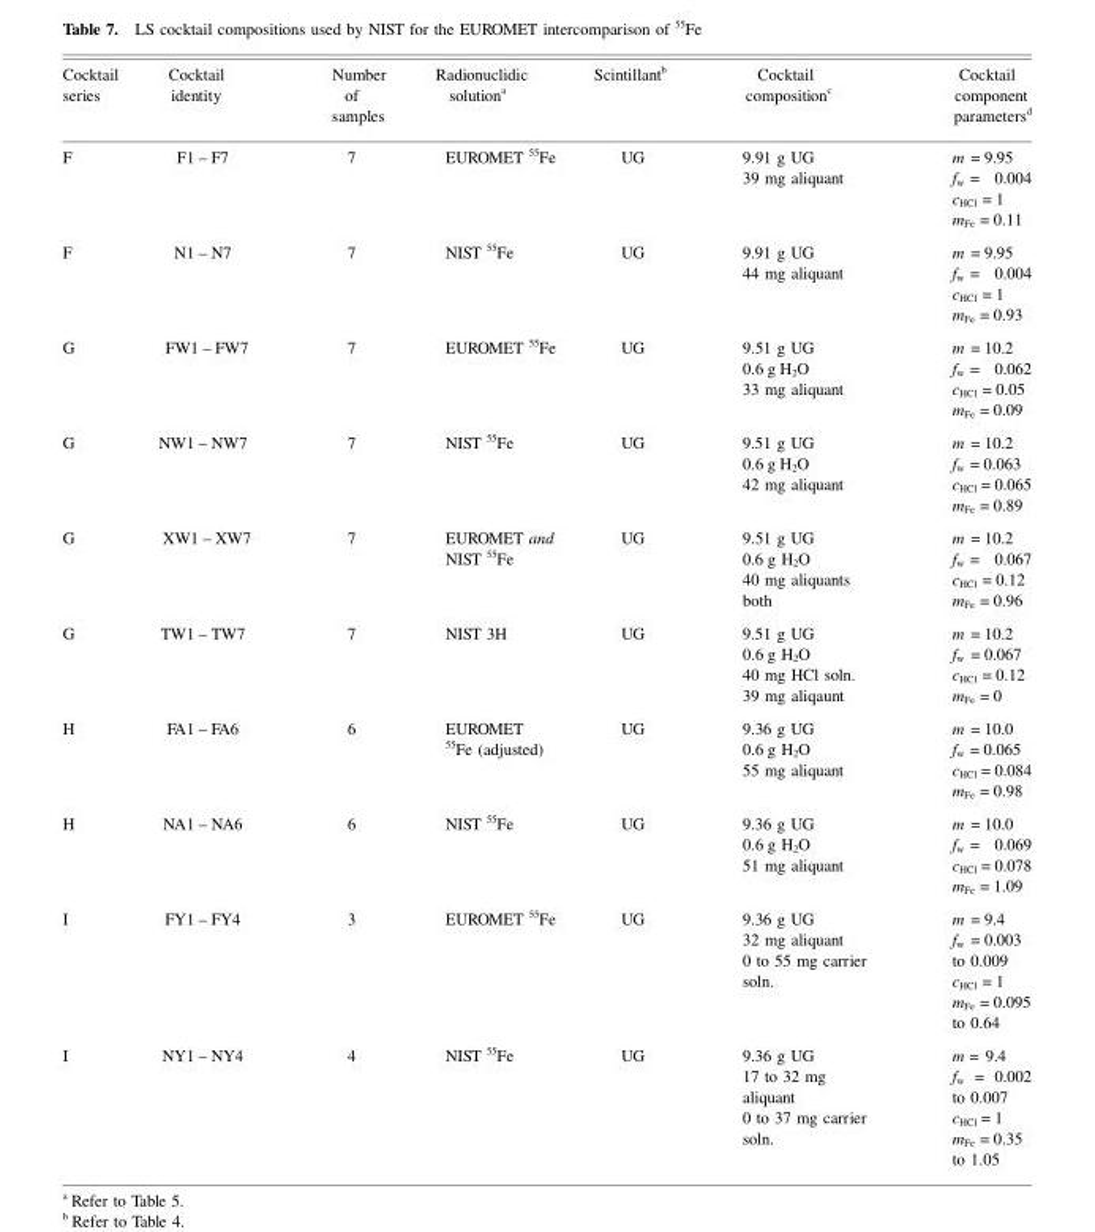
<table><thead><tr><td>Cocktail series</td><td>Cocktail identity</td><td>Number of samples</td><td>Radionuclidic solution<sup>a</sup></td><td>Scintillant<sup>b</sup></td><td>Cocktail composition<sup>c</sup></td><td>Cocktail component parameters<sup>d</sup></td></tr></thead><tbody><tr><td>F</td><td>F1 – F7</td><td>7</td><td>EUROMET <sup>55</sup>Fe</td><td>UG</td><td>9.91 g UG 39 mg aliquant</td><td>m = 9.95 f<sub>w</sub> = 0.004 c<sub>HCl</sub> = 1 m<sub>Fe</sub> = 0.11</td></tr><tr><td>F</td><td>N1 – N7</td><td>7</td><td>NIST <sup>55</sup>Fe</td><td>UG</td><td>9.91 g UG 44 mg aliquant</td><td>m = 9.95 f<sub>w</sub> = 0.004 c<sub>HCl</sub> = 1 m<sub>Fe</sub> = 0.93</td></tr><tr><td>G</td><td>FW1 – FW7</td><td>7</td><td>EUROMET <sup>55</sup>Fe</td><td>UG</td><td>9.51 g UG 0.6 g H<sub>2</sub>O 33 mg aliquant</td><td>m = 10.2 f<sub>w</sub> = 0.062 c<sub>HCl</sub> = 0.05 m<sub>Fe</sub> = 0.09</td></tr><tr><td>G</td><td>NW1 – NW7</td><td>7</td><td>NIST <sup>55</sup>Fe</td><td>UG</td><td>9.51 g UG 0.6 g H<sub>2</sub>O 42 mg aliquant</td><td>m = 10.2 f<sub>w</sub> = 0.063 c<sub>HCl</sub> = 0.065 m<sub>Fe</sub> = 0.89</td></tr><tr><td>G</td><td>XW1 – XW7</td><td>7</td><td>EUROMET and NIST <sup>55</sup>Fe</td><td>UG</td><td>9.51 g UG 0.6 g H<sub>2</sub>O 40 mg aliquants both</td><td>m = 10.2 f<sub>w</sub> = 0.067 c<sub>HCl</sub> = 0.12 m<sub>Fe</sub> = 0.96</td></tr><tr><td>G</td><td>TW1 – TW7</td><td>7</td><td>NIST 3H</td><td>UG</td><td>9.51 g UG 0.6 g H<sub>2</sub>O 40 mg HCl soln. 39 mg aliqaunt</td><td>m = 10.2 f<sub>w</sub> = 0.067 c<sub>HCl</sub> = 0.12 m<sub>Fe</sub> = 0</td></tr><tr><td>H</td><td>FA1 – FA6</td><td>6</td><td>EUROMET <sup>55</sup>Fe (adjusted)</td><td>UG</td><td>9.36 g UG 0.6 g H<sub>2</sub>O 55 mg aliquant</td><td>m = 10.0 f<sub>w</sub> = 0.065 c<sub>HCl</sub> = 0.084 m<sub>Fe</sub> = 0.98</td></tr><tr><td>H</td><td>NA1 – NA6</td><td>6</td><td>NIST <sup>55</sup>Fe</td><td>UG</td><td>9.36 g UG 0.6 g H<sub>2</sub>O 51 mg aliquant</td><td>m = 10.0 f<sub>w</sub> = 0.069 c<sub>HCl</sub> = 0.078 m<sub>Fe</sub> = 1.09</td></tr><tr><td>I</td><td>FY1 – FY4</td><td>3</td><td>EUROMET <sup>55</sup>Fe</td><td>UG</td><td>9.36 g UG 32 mg aliquant 0 to 55 mg carrier soln.</td><td>m = 9.4 f<sub>w</sub> = 0.003 to 0.009 c<sub>HCl</sub> = 1 m<sub>Fe</sub> = 0.095 to 0.64</td></tr><tr><td>I</td><td>NY1 – NY4</td><td>4</td><td>NIST <sup>55</sup>Fe</td><td>UG</td><td>9.36 g UG 17 to 32 mg aliquant 0 to 37 mg carrier soln.</td><td>m = 9.4 f<sub>w</sub> = 0.002 to 0.007 c<sub>HCl</sub> = 1 m<sub>Fe</sub> = 0.35 to 1.05</td></tr></tbody></table>